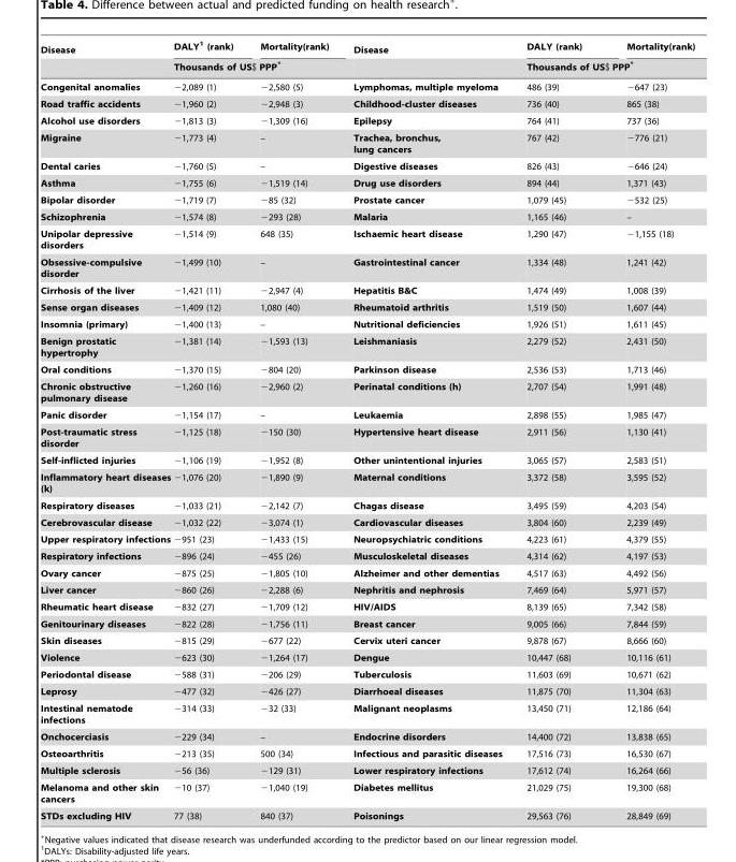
<table><thead><tr><td rowspan="2">Disease</td><td>DALY<sup>1</sup> (rank)</td><td>Mortality(rank)</td><td rowspan="2">Disease</td><td>DALY (rank)</td><td>Mortality(rank)</td></tr><tr><td colspan="2">Thousands of US$ PPP*</td><td colspan="2">Thousands of US$ PPP*</td></tr></thead><tbody><tr><td>Congenital anomalies</td><td>−2,089 (1)</td><td>−2,580 (5)</td><td>Lymphomas, multiple myeloma</td><td>486 (39)</td><td>−647 (23)</td></tr><tr><td>Road traffic accidents</td><td>−1,960 (2)</td><td>−2,948 (3)</td><td>Childhood-cluster diseases</td><td>736 (40)</td><td>865 (38)</td></tr><tr><td>Alcohol use disorders</td><td>−1,813 (3)</td><td>−1,309 (16)</td><td>Epilepsy</td><td>764 (41)</td><td>737 (36)</td></tr><tr><td>Migraine</td><td>−1,773 (4)</td><td>–</td><td>Trachea, bronchus, lung cancers</td><td>767 (42)</td><td>−776 (21)</td></tr><tr><td>Dental caries</td><td>−1,760 (5)</td><td>–</td><td>Digestive diseases</td><td>826 (43)</td><td>−646 (24)</td></tr><tr><td>Asthma</td><td>−1,755 (6)</td><td>−1,519 (14)</td><td>Drug use disorders</td><td>894 (44)</td><td>1,371 (43)</td></tr><tr><td>Bipolar disorder</td><td>−1,719 (7)</td><td>−85 (32)</td><td>Prostate cancer</td><td>1,079 (45)</td><td>−532 (25)</td></tr><tr><td>Schizophrenia</td><td>−1,574 (8)</td><td>−293 (28)</td><td>Malaria</td><td>1,165 (46)</td><td>–</td></tr><tr><td>Unipolar depressive disorders</td><td>−1,514 (9)</td><td>648 (35)</td><td>Ischaemic heart disease</td><td>1,290 (47)</td><td>−1,155 (18)</td></tr><tr><td>Obsessive-compulsive disorder</td><td>−1,499 (10)</td><td>–</td><td>Gastrointestinal cancer</td><td>1,334 (48)</td><td>1,241 (42)</td></tr><tr><td>Cirrhosis of the liver</td><td>−1,421 (11)</td><td>−2,947 (4)</td><td>Hepatitis B&amp;C</td><td>1,474 (49)</td><td>1,008 (39)</td></tr><tr><td>Sense organ diseases</td><td>−1,409 (12)</td><td>1,080 (40)</td><td>Rheumatoid arthritis</td><td>1,519 (50)</td><td>1,607 (44)</td></tr><tr><td>Insomnia (primary)</td><td>−1,400 (13)</td><td>–</td><td>Nutritional deficiencies</td><td>1,926 (51)</td><td>1,611 (45)</td></tr><tr><td>Benign prostatic hypertrophy</td><td>−1,381 (14)</td><td>−1,593 (13)</td><td>Leishmaniasis</td><td>2,279 (52)</td><td>2,431 (50)</td></tr><tr><td>Oral conditions</td><td>−1,370 (15)</td><td>−804 (20)</td><td>Parkinson disease</td><td>2,536 (53)</td><td>1,713 (46)</td></tr><tr><td>Chronic obstructive pulmonary disease</td><td>−1,260 (16)</td><td>−2,960 (2)</td><td>Perinatal conditions (h)</td><td>2,707 (54)</td><td>1,991 (48)</td></tr><tr><td>Panic disorder</td><td>−1,154 (17)</td><td>–</td><td>Leukaemia</td><td>2,898 (55)</td><td>1,985 (47)</td></tr><tr><td>Post-traumatic stress disorder</td><td>−1,125 (18)</td><td>−150 (30)</td><td>Hypertensive heart disease</td><td>2,911 (56)</td><td>1,130 (41)</td></tr><tr><td>Self-inflicted injuries</td><td>−1,106 (19)</td><td>−1,952 (8)</td><td>Other unintentional injuries</td><td>3,065 (57)</td><td>2,583 (51)</td></tr><tr><td>Inflammatory heart diseases (k)</td><td>−1,076 (20)</td><td>−1,890 (9)</td><td>Maternal conditions</td><td>3,372 (58)</td><td>3,595 (52)</td></tr><tr><td>Respiratory diseases</td><td>−1,033 (21)</td><td>−2,142 (7)</td><td>Chagas disease</td><td>3,495 (59)</td><td>4,203 (54)</td></tr><tr><td>Cerebrovascular disease</td><td>−1,032 (22)</td><td>−3,074 (1)</td><td>Cardiovascular diseases</td><td>3,804 (60)</td><td>2,239 (49)</td></tr><tr><td>Upper respiratory infections</td><td>−951 (23)</td><td>−1,433 (15)</td><td>Neuropsychiatric conditions</td><td>4,223 (61)</td><td>4,379 (55)</td></tr><tr><td>Respiratory infections</td><td>−896 (24)</td><td>−455 (26)</td><td>Musculoskeletal diseases</td><td>4,314 (62)</td><td>4,197 (53)</td></tr><tr><td>Ovary cancer</td><td>−875 (25)</td><td>−1,805 (10)</td><td>Alzheimer and other dementias</td><td>4,517 (63)</td><td>4,492 (56)</td></tr><tr><td>Liver cancer</td><td>−860 (26)</td><td>−2,288 (6)</td><td>Nephritis and nephrosis</td><td>7,469 (64)</td><td>5,971 (57)</td></tr><tr><td>Rheumatic heart disease</td><td>−832 (27)</td><td>−1,709 (12)</td><td>HIV/AIDS</td><td>8,139 (65)</td><td>7,342 (58)</td></tr><tr><td>Genitourinary diseases</td><td>−822 (28)</td><td>−1,756 (11)</td><td>Breast cancer</td><td>9,005 (66)</td><td>7,844 (59)</td></tr><tr><td>Skin diseases</td><td>−815 (29)</td><td>−677 (22)</td><td>Cervix uteri cancer</td><td>9,878 (67)</td><td>8,666 (60)</td></tr><tr><td>Violence</td><td>−623 (30)</td><td>−1,264 (17)</td><td>Dengue</td><td>10,447 (68)</td><td>10,116 (61)</td></tr><tr><td>Periodontal disease</td><td>−588 (31)</td><td>−206 (29)</td><td>Tuberculosis</td><td>11,603 (69)</td><td>10,671 (62)</td></tr><tr><td>Leprosy</td><td>−477 (32)</td><td>−426 (27)</td><td>Diarrhoeal diseases</td><td>11,875 (70)</td><td>11,304 (63)</td></tr><tr><td>Intestinal nematode infections</td><td>−314 (33)</td><td>−32 (33)</td><td>Malignant neoplasms</td><td>13,450 (71)</td><td>12,186 (64)</td></tr><tr><td>Onchocerciasis</td><td>−229 (34)</td><td>–</td><td>Endocrine disorders</td><td>14,400 (72)</td><td>13,838 (65)</td></tr><tr><td>Osteoarthritis</td><td>−213 (35)</td><td>500 (34)</td><td>Infectious and parasitic diseases</td><td>17,516 (73)</td><td>16,530 (67)</td></tr><tr><td>Multiple sclerosis</td><td>−56 (36)</td><td>−129 (31)</td><td>Lower respiratory infections</td><td>17,612 (74)</td><td>16,264 (66)</td></tr><tr><td>Melanoma and other skin cancers</td><td>−10 (37)</td><td>−1,040 (19)</td><td>Diabetes mellitus</td><td>21,029 (75)</td><td>19,300 (68)</td></tr><tr><td>STDs excluding HIV</td><td>77 (38)</td><td>840 (37)</td><td>Poisonings</td><td>29,563 (76)</td><td>28,849 (69)</td></tr></tbody></table>